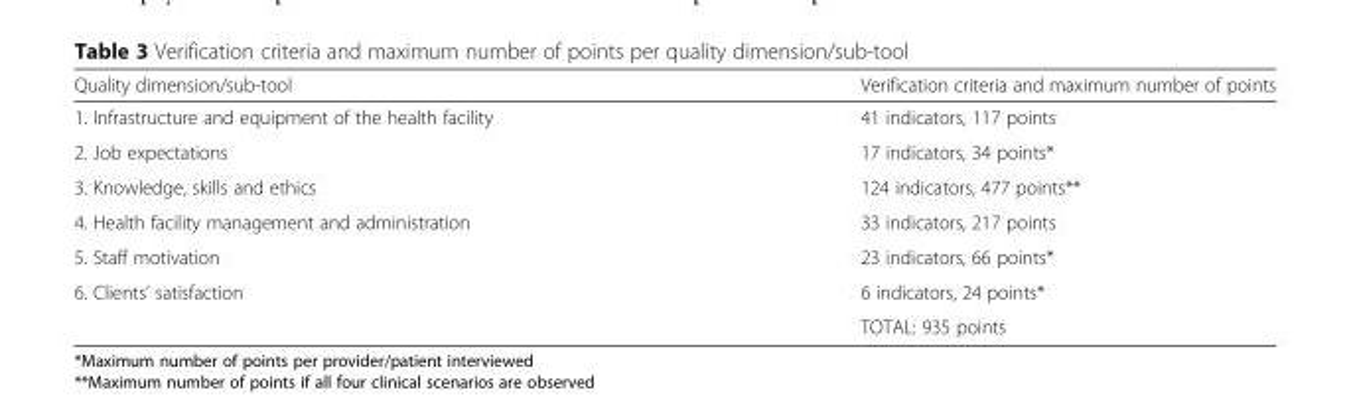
<table><thead><tr><td>Quality dimension/sub-tool</td><td>Verification criteria and maximum number of points</td></tr></thead><tbody><tr><td>1. Infrastructure and equipment of the health facility</td><td>41 indicators, 117 points</td></tr><tr><td>2. Job expectations</td><td>17 indicators, 34 points*</td></tr><tr><td>3. Knowledge, skills and ethics</td><td>124 indicators, 477 points**</td></tr><tr><td>4. Health facility management and administration</td><td>33 indicators, 217 points</td></tr><tr><td>5. Staff motivation</td><td>23 indicators, 66 points*</td></tr><tr><td rowspan="2">6. Clients’ satisfaction</td><td>6 indicators, 24 points*</td></tr><tr><td>TOTAL: 935 points</td></tr></tbody></table>